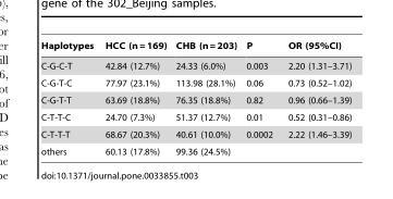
<table><thead><tr><td>Haplotypes</td><td>HCC (n = 169)</td><td>CHB (n = 203)</td><td>P</td><td>OR (95%CI)</td></tr></thead><tbody><tr><td>C-G-C-T</td><td>42.84 (12.7%)</td><td>24.33 (6.0%)</td><td>0.003</td><td>2.20 (1.31–3.71)</td></tr><tr><td>C-G-T-C</td><td>77.97 (23.1%)</td><td>113.98 (28.1%)</td><td>0.06</td><td>0.73 (0.52–1.02)</td></tr><tr><td>C-G-T-T</td><td>63.69 (18.8%)</td><td>76.35 (18.8%)</td><td>0.82</td><td>0.96 (0.66–1.39)</td></tr><tr><td>C-T-T-C</td><td>24.70 (7.3%)</td><td>51.37 (12.7%)</td><td>0.01</td><td>0.52 (0.31–0.86)</td></tr><tr><td>C-T-T-T</td><td>68.67 (20.3%)</td><td>40.61 (10.0%)</td><td>0.0002</td><td>2.22 (1.46–3.39)</td></tr><tr><td>others</td><td>60.13 (17.8%)</td><td>99.36 (24.5%)</td><td></td><td></td></tr></tbody></table>